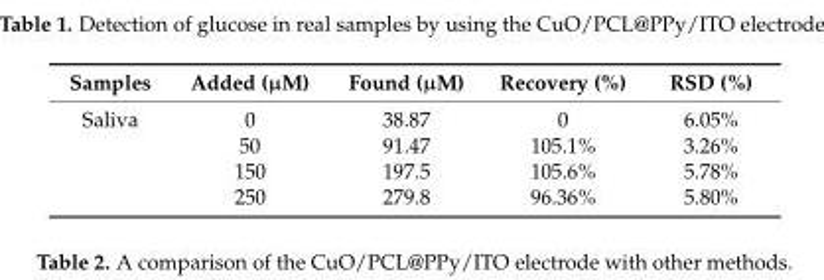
<table><thead><tr><td>Samples</td><td>Added (µM)</td><td>Found (µM)</td><td>Recovery (%)</td><td>RSD (%)</td></tr></thead><tbody><tr><td rowspan="4">Saliva</td><td>0</td><td>38.87</td><td>0</td><td>6.05%</td></tr><tr><td>50</td><td>91.47</td><td>105.1%</td><td>3.26%</td></tr><tr><td>150</td><td>197.5</td><td>105.6%</td><td>5.78%</td></tr><tr><td>250</td><td>279.8</td><td>96.36%</td><td>5.80%</td></tr></tbody></table>